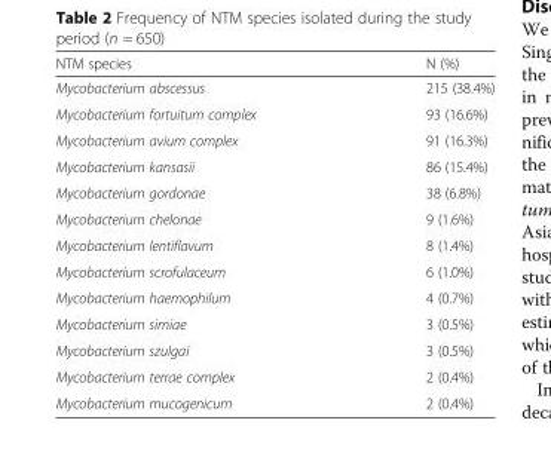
<table><thead><tr><td>NTM species</td><td>N (%)</td></tr></thead><tbody><tr><td>Mycobacterium abscessus</td><td>215 (38.4%)</td></tr><tr><td>Mycobacterium fortuitum complex</td><td>93 (16.6%)</td></tr><tr><td>Mycobacterium avium complex</td><td>91 (16.3%)</td></tr><tr><td>Mycobacterium kansasii</td><td>86 (15.4%)</td></tr><tr><td>Mycobacterium gordonae</td><td>38 (6.8%)</td></tr><tr><td>Mycobacterium chelonae</td><td>9 (1.6%)</td></tr><tr><td>Mycobacterium lentiflavum</td><td>8 (1.4%)</td></tr><tr><td>Mycobacterium scrofulaceum</td><td>6 (1.0%)</td></tr><tr><td>Mycobacterium haemophilum</td><td>4 (0.7%)</td></tr><tr><td>Mycobacterium simiae</td><td>3 (0.5%)</td></tr><tr><td>Mycobacterium szulgai</td><td>3 (0.5%)</td></tr><tr><td>Mycobacterium terrae complex</td><td>2 (0.4%)</td></tr><tr><td>Mycobacterium mucogenicum</td><td>2 (0.4%)</td></tr></tbody></table>